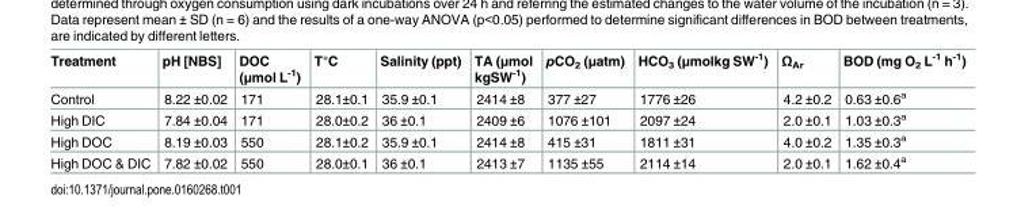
<table><thead><tr><td>Treatment</td><td>pH [NBS]</td><td>DOC (μmol L<sup>-1</sup>)</td><td>T°C</td><td>Salinity (ppt)</td><td>TA (μmol kgSW<sup>-1</sup>)</td><td>pCO<sub>2</sub> (μatm)</td><td>HCO<sub>3</sub> (μmolkg SW<sup>-1</sup>)</td><td>Ω<sub>Ar</sub></td><td>BOD (mg O<sub>2</sub> L<sup>-1</sup> h<sup>-1</sup>)</td></tr></thead><tbody><tr><td>Control</td><td>8.22 ±0.02</td><td>171</td><td>28.1±0.1</td><td>35.9 ±0.1</td><td>2414 ±8</td><td>377 ±27</td><td>1776 ±26</td><td>4.2 ±0.2</td><td>0.63 ±0.6<sup>a</sup></td></tr><tr><td>High DIC</td><td>7.84 ±0.04</td><td>171</td><td>28.0±0.2</td><td>36 ±0.1</td><td>2409 ±6</td><td>1076 ±101</td><td>2097 ±24</td><td>2.0 ±0.1</td><td>1.03 ±0.3<sup>a</sup></td></tr><tr><td>High DOC</td><td>8.19 ±0.03</td><td>550</td><td>28.1±0.2</td><td>35.9 ±0.1</td><td>2414 ±8</td><td>415 ±31</td><td>1811 ±31</td><td>4.0 ±0.2</td><td>1.35 ±0.3<sup>a</sup></td></tr><tr><td>High DOC &amp; DIC</td><td>7.82 ±0.02</td><td>550</td><td>28.0±0.1</td><td>36 ±0.1</td><td>2413 ±7</td><td>1135 ±55</td><td>2114 ±14</td><td>2.0 ±0.1</td><td>1.62 ±0.4<sup>a</sup></td></tr></tbody></table>